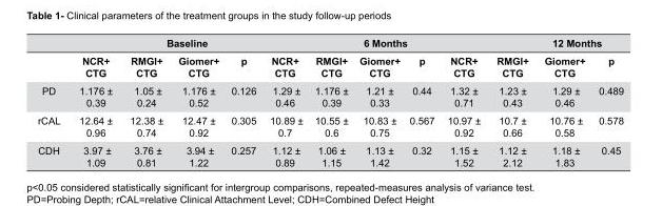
<table><thead><tr><td rowspan="2"></td><td colspan="4">Baseline</td><td colspan="4">6 Months</td><td colspan="4">12 Months</td></tr><tr><td>NCR+ CTG</td><td>RMGI+ CTG</td><td>Giomer+ CTG</td><td>p</td><td>NCR+ CTG</td><td>RMGI+ CTG</td><td>Giomer+ CTG</td><td>p</td><td>NCR+ CTG</td><td>RMGI+ CTG</td><td>Giomer+ CTG</td><td>p</td></tr></thead><tbody><tr><td>PD</td><td>1.176 ± 0.39</td><td>1.05 ± 0.24</td><td>1.176 ± 0.52</td><td>0.126</td><td>1.29 ± 0.46</td><td>1.176 ± 0.39</td><td>1.21 ± 0.33</td><td>0.44</td><td>1.32 ± 0.71</td><td>1.23 ± 0.43</td><td>1.29 ± 0.46</td><td>0.489</td></tr><tr><td>rCAL</td><td>12.64 ± 0.96</td><td>12.38 ± 0.74</td><td>12.47 ± 0.92</td><td>0.305</td><td>10.89 ± 0.7</td><td>10.55 ± 0.6</td><td>10.83 ± 0.75</td><td>0.567</td><td>10.97 ± 0.92</td><td>10.7 ± 0.66</td><td>10.76 ± 0.58</td><td>0.578</td></tr><tr><td>CDH</td><td>3.97 ± 1.09</td><td>3.76 ± 0.81</td><td>3.94 ± 1.22</td><td>0.257</td><td>1.12 ± 0.89</td><td>1.06 ± 1.15</td><td>1.13 ± 1.42</td><td>0.32</td><td>1.15 ± 1.52</td><td>1.12 ± 2.12</td><td>1.18 ± 1.83</td><td>0.45</td></tr></tbody></table>